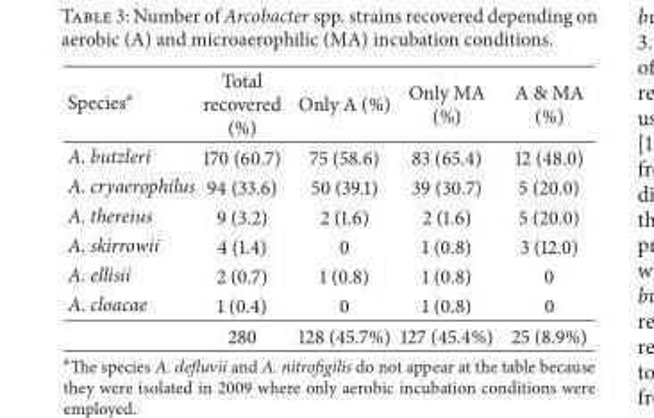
<table><thead><tr><td>Species<sup>a</sup></td><td>Total recovered (%)</td><td>Only A (%)</td><td>Only MA (%)</td><td>A &amp; MA (%)</td></tr></thead><tbody><tr><td>A. butzleri</td><td>170 (60.7)</td><td>75 (58.6)</td><td>83 (65.4)</td><td>12 (48.0)</td></tr><tr><td>A. cryaerophilus</td><td>94 (33.6)</td><td>50 (39.1)</td><td>39 (30.7)</td><td>5 (20.0)</td></tr><tr><td>A. thereius</td><td>9 (3.2)</td><td>2 (1.6)</td><td>2 (1.6)</td><td>5 (20.0)</td></tr><tr><td>A. skirrowii</td><td>4 (1.4)</td><td>0</td><td>1 (0.8)</td><td>3 (12.0)</td></tr><tr><td>A. ellisii</td><td>2 (0.7)</td><td>1 (0.8)</td><td>1 (0.8)</td><td>0</td></tr><tr><td rowspan="2">A. cloacae</td><td>1 (0.4)</td><td>0</td><td>1 (0.8)</td><td>0</td></tr><tr><td>280</td><td>128 (45.7%)</td><td>127 (45.4%)</td><td>25 (8.9%)</td></tr></tbody></table>